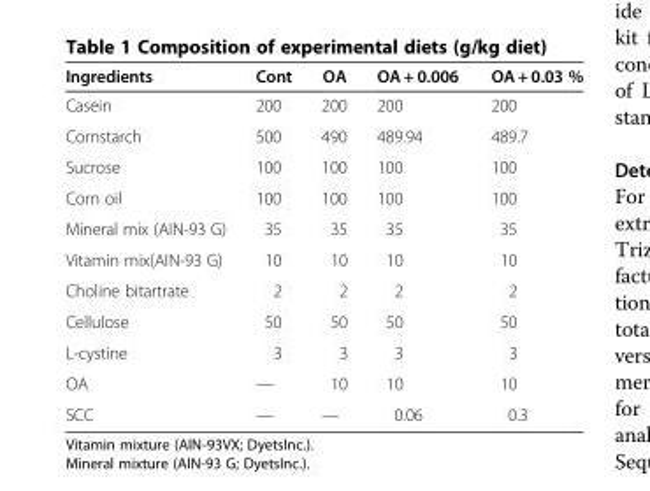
<table><thead><tr><td>Ingredients</td><td>Cont</td><td>OA</td><td>OA + 0.006</td><td>OA + 0.03 %</td></tr></thead><tbody><tr><td>Casein</td><td>200</td><td>200</td><td>200</td><td>200</td></tr><tr><td>Cornstarch</td><td>500</td><td>490</td><td>489.94</td><td>489.7</td></tr><tr><td>Sucrose</td><td>100</td><td>100</td><td>100</td><td>100</td></tr><tr><td>Corn oil</td><td>100</td><td>100</td><td>100</td><td>100</td></tr><tr><td>Mineral mix (AIN-93 G)</td><td>35</td><td>35</td><td>35</td><td>35</td></tr><tr><td>Vitamin mix(AIN-93 G)</td><td>10</td><td>10</td><td>10</td><td>10</td></tr><tr><td>Choline bitartrate</td><td>2</td><td>2</td><td>2</td><td>2</td></tr><tr><td>Cellulose</td><td>50</td><td>50</td><td>50</td><td>50</td></tr><tr><td>L-cystine</td><td>3</td><td>3</td><td>3</td><td>3</td></tr><tr><td>OA</td><td>—</td><td>10</td><td>10</td><td>10</td></tr><tr><td>SCC</td><td>—</td><td>—</td><td>0.06</td><td>0.3</td></tr></tbody></table>